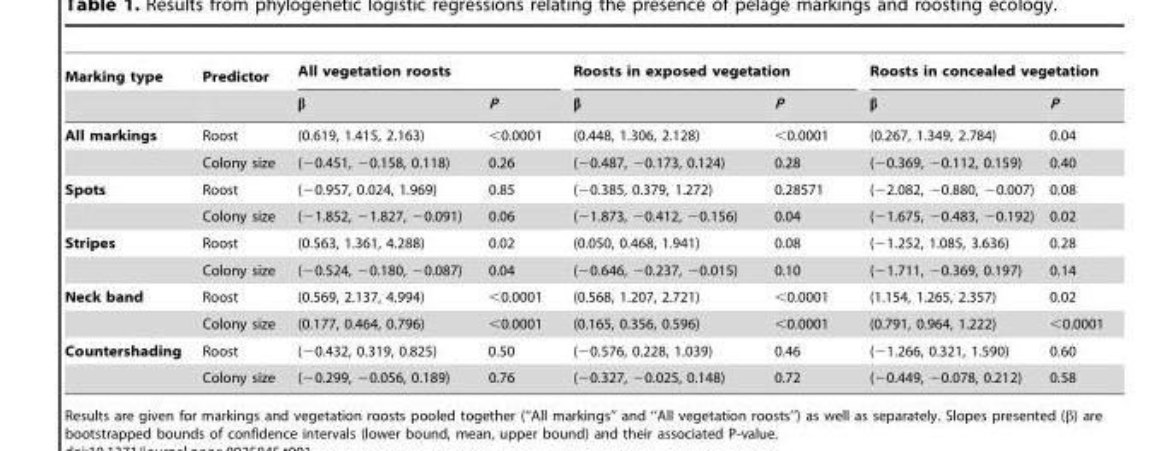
<table><thead><tr><td rowspan="2">Marking type</td><td rowspan="2">Predictor</td><td colspan="2">All vegetation roosts</td><td colspan="2">Roosts in exposed vegetation</td><td colspan="2">Roosts in concealed vegetation</td></tr><tr><td>β</td><td>P</td><td>β</td><td>P</td><td>β</td><td>P</td></tr></thead><tbody><tr><td rowspan="2">All markings</td><td>Roost</td><td>(0.619, 1.415, 2.163)</td><td>&lt;0.0001</td><td>(0.448, 1.306, 2.128)</td><td>&lt;0.0001</td><td>(0.267, 1.349, 2.784)</td><td>0.04</td></tr><tr><td>Colony size</td><td>(−0.451, −0.158, 0.118)</td><td>0.26</td><td>(−0.487, −0.173, 0.124)</td><td>0.28</td><td>(−0.369, −0.112, 0.159)</td><td>0.40</td></tr><tr><td rowspan="2">Spots</td><td>Roost</td><td>(−0.957, 0.024, 1.969)</td><td>0.85</td><td>(−0.385, 0.379, 1.272)</td><td>0.28571</td><td>(−2.082, −0.880, −0.007)</td><td>0.08</td></tr><tr><td>Colony size</td><td>(−1.852, −1.827, −0.091)</td><td>0.06</td><td>(−1.873, −0.412, −0.156)</td><td>0.04</td><td>(−1.675, −0.483, −0.192)</td><td>0.02</td></tr><tr><td rowspan="2">Stripes</td><td>Roost</td><td>(0.563, 1.361, 4.288)</td><td>0.02</td><td>(0.050, 0.468, 1.941)</td><td>0.08</td><td>(−1.252, 1.085, 3.636)</td><td>0.28</td></tr><tr><td>Colony size</td><td>(−0.524, −0.180, −0.087)</td><td>0.04</td><td>(−0.646, −0.237, −0.015)</td><td>0.10</td><td>(−1.711, −0.369, 0.197)</td><td>0.14</td></tr><tr><td rowspan="2">Neck band</td><td>Roost</td><td>(0.569, 2.137, 4.994)</td><td>&lt;0.0001</td><td>(0.568, 1.207, 2.721)</td><td>&lt;0.0001</td><td>(1.154, 1.265, 2.357)</td><td>0.02</td></tr><tr><td>Colony size</td><td>(0.177, 0.464, 0.796)</td><td>&lt;0.0001</td><td>(0.165, 0.356, 0.596)</td><td>&lt;0.0001</td><td>(0.791, 0.964, 1.222)</td><td>&lt;0.0001</td></tr><tr><td rowspan="2">Countershading</td><td>Roost</td><td>(−0.432, 0.319, 0.825)</td><td>0.50</td><td>(−0.576, 0.228, 1.039)</td><td>0.46</td><td>(−1.266, 0.321, 1.590)</td><td>0.60</td></tr><tr><td>Colony size</td><td>(−0.299, −0.056, 0.189)</td><td>0.76</td><td>(−0.327, −0.025, 0.148)</td><td>0.72</td><td>(−0.449, −0.078, 0.212)</td><td>0.58</td></tr></tbody></table>